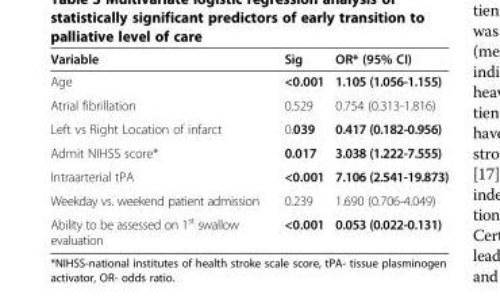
<table><thead><tr><td>Variable</td><td>Sig</td><td>OR* (95% CI)</td></tr></thead><tbody><tr><td>Age</td><td>&lt;0.001</td><td>1.105 (1.056-1.155)</td></tr><tr><td>Atrial fibrillation</td><td>0.529</td><td>0.754 (0.313-1.816)</td></tr><tr><td>Left vs Right Location of infarct</td><td>0.039</td><td>0.417 (0.182-0.956)</td></tr><tr><td>Admit NIHSS score*</td><td>0.017</td><td>3.038 (1.222-7.555)</td></tr><tr><td>Intraarterial tPA</td><td>&lt;0.001</td><td>7.106 (2.541-19.873)</td></tr><tr><td>Weekday vs. weekend patient admission</td><td>0.239</td><td>1.690 (0.706-4.049)</td></tr><tr><td>Ability to be assessed on 1<sup>st</sup> swallow evaluation</td><td>&lt;0.001</td><td>0.053 (0.022-0.131)</td></tr></tbody></table>